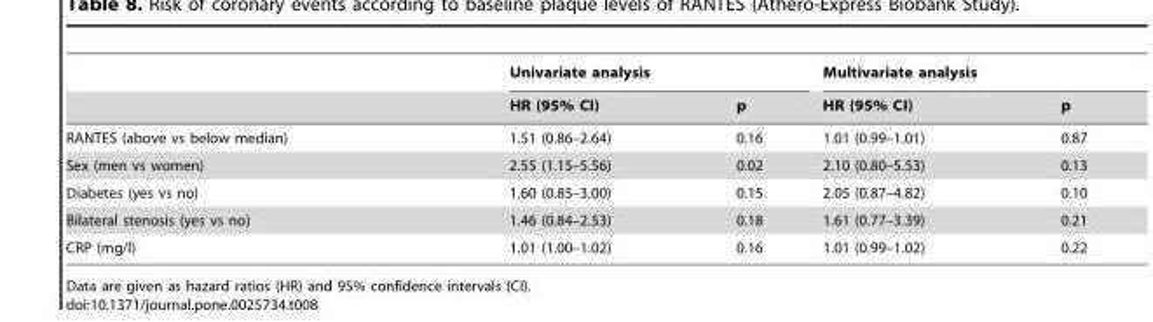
<table><thead><tr><td rowspan="2"></td><td colspan="2">Univariate analysis</td><td colspan="2">Multivariate analysis</td></tr><tr><td>HR (95% CI)</td><td>p</td><td>HR (95% CI)</td><td>p</td></tr></thead><tbody><tr><td>RANTES (above vs below median)</td><td>1.51 (0.86–2.64)</td><td>0.16</td><td>1.01 (0.99–1.01)</td><td>0.87</td></tr><tr><td>Sex (men vs women)</td><td>2.55 (1.15–5.56)</td><td>0.02</td><td>2.10 (0.80–5.53)</td><td>0.13</td></tr><tr><td>Diabetes (yes vs no)</td><td>1.60 (0.85–3.00)</td><td>0.15</td><td>2.05 (0.87–4.82)</td><td>0.10</td></tr><tr><td>Bilateral stenosis (yes vs no)</td><td>1.46 (0.84–2.53)</td><td>0.18</td><td>1.61 (0.77–3.39)</td><td>0.21</td></tr><tr><td>CRP (mg/l)</td><td>1.01 (1.00–1.02)</td><td>0.16</td><td>1.01 (0.99–1.02)</td><td>0.22</td></tr></tbody></table>